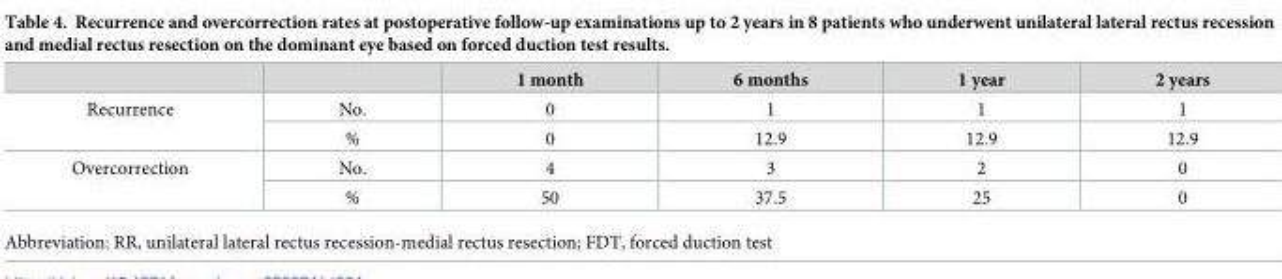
<table><thead><tr><td></td><td></td><td>1 month</td><td>6 months</td><td>1 year</td><td>2 years</td></tr></thead><tbody><tr><td rowspan="2">Recurrence</td><td>No.</td><td>0</td><td>1</td><td>1</td><td>1</td></tr><tr><td>%</td><td>0</td><td>12.9</td><td>12.9</td><td>12.9</td></tr><tr><td rowspan="2">Overcorrection</td><td>No.</td><td>4</td><td>3</td><td>2</td><td>0</td></tr><tr><td>%</td><td>50</td><td>37.5</td><td>25</td><td>0</td></tr></tbody></table>